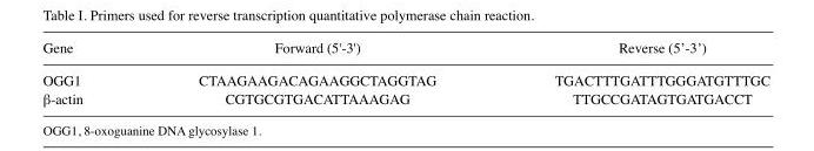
<table><thead><tr><td>Gene</td><td>Forward (5&#x27;-3&#x27;)</td><td>Reverse (5’-3’)</td></tr></thead><tbody><tr><td>OGG1</td><td>CTAAGAAGACAGAAGGCTAGGTAG</td><td>TGACTTTGATTTGGGATGTTTGC</td></tr><tr><td>β-actin</td><td>CGTGCGTGACATTAAAGAG</td><td>TTGCCGATAGTGATGACCT</td></tr></tbody></table>